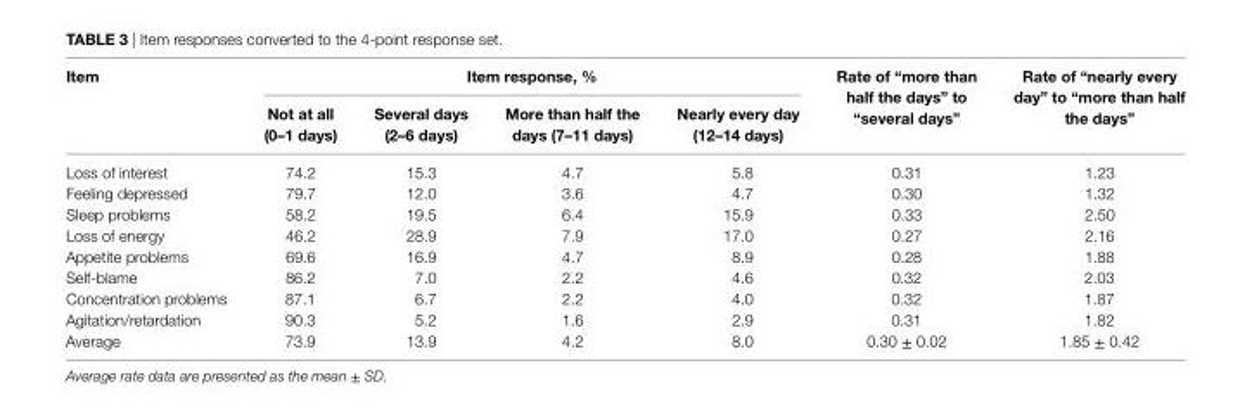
<table><thead><tr><td rowspan="2">item</td><td colspan="4">item response, %</td><td rowspan="2">rate of “more than half the days” to “several days”</td><td rowspan="2">rate of “nearly every day” to “more than half the days”</td></tr><tr><td>not at all (0–1 days)</td><td>several days (2–6 days)</td><td>More than half the days (7–11 days)</td><td>nearly every day (12–14 days)</td></tr></thead><tbody><tr><td>Loss of interest</td><td>74.2</td><td>15.3</td><td>4.7</td><td>5.8</td><td>0.31</td><td>1.23</td></tr><tr><td>Feeling depressed</td><td>79.7</td><td>12.0</td><td>3.6</td><td>4.7</td><td>0.30</td><td>1.32</td></tr><tr><td>Sleep problems</td><td>58.2</td><td>19.5</td><td>6.4</td><td>15.9</td><td>0.33</td><td>2.50</td></tr><tr><td>Loss of energy</td><td>46.2</td><td>28.9</td><td>7.9</td><td>17.0</td><td>0.27</td><td>2.16</td></tr><tr><td>Appetite problems</td><td>69.6</td><td>16.9</td><td>4.7</td><td>8.9</td><td>0.28</td><td>1.88</td></tr><tr><td>Self-blame</td><td>86.2</td><td>7.0</td><td>2.2</td><td>4.6</td><td>0.32</td><td>2.03</td></tr><tr><td>Concentration problems</td><td>87.1</td><td>6.7</td><td>2.2</td><td>4.0</td><td>0.32</td><td>1.87</td></tr><tr><td>Agitation/retardation</td><td>90.3</td><td>5.2</td><td>1.6</td><td>2.9</td><td>0.31</td><td>1.82</td></tr><tr><td>Average</td><td>73.9</td><td>13.9</td><td>4.2</td><td>8.0</td><td>0.30 ± 0.02</td><td>1.85 ± 0.42</td></tr></tbody></table>